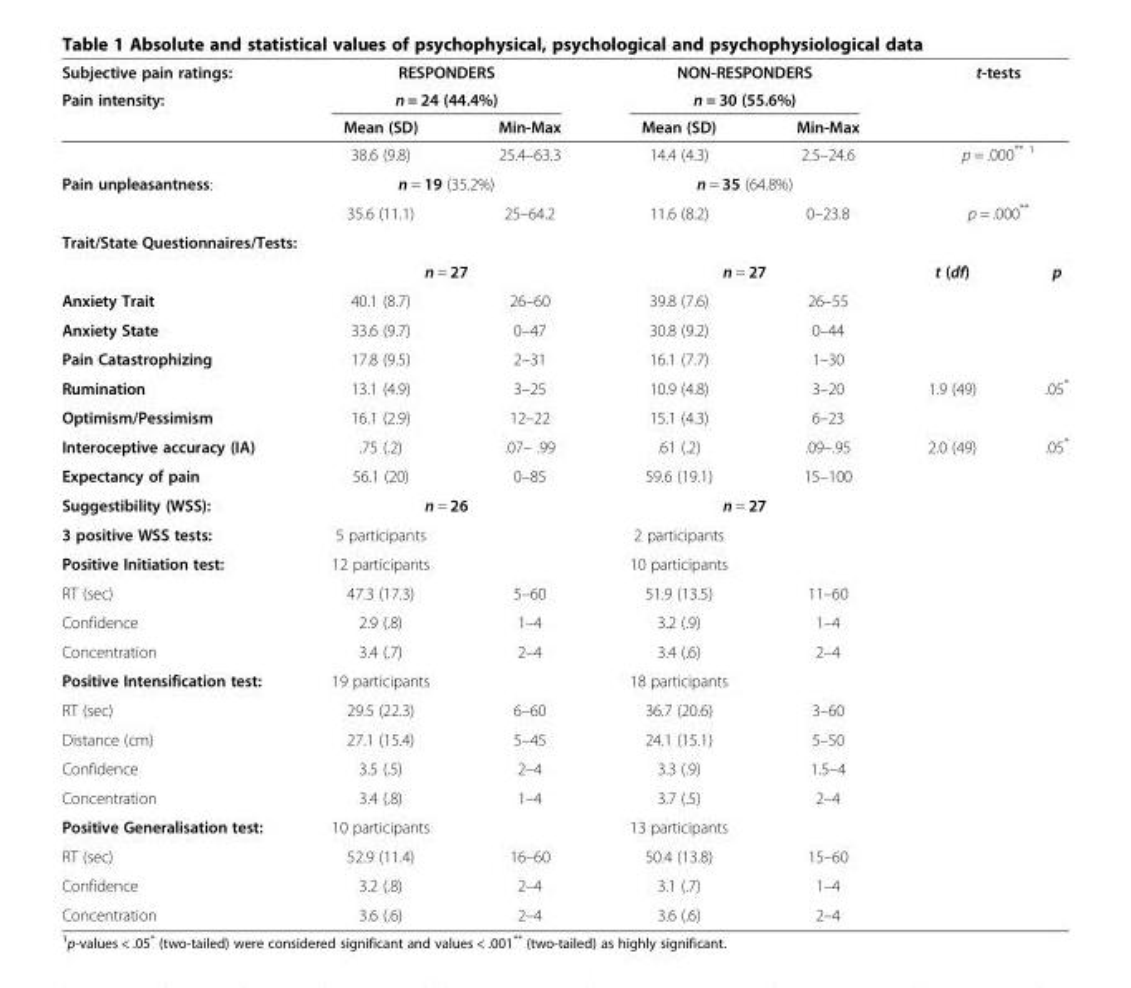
<table><thead><tr><td rowspan="3">Subjective pain ratings: Pain intensity:</td><td rowspan="2" colspan="2">RESPONDERS n = 24 (44.4%)</td><td rowspan="2" colspan="2">NON-RESPONDERS n = 30 (55.6%)</td><td colspan="2">t-tests</td></tr><tr><td rowspan="2"></td><td rowspan="2"></td></tr><tr><td>Mean (SD)</td><td>Min-Max</td><td>Mean (SD)</td><td>Min-Max</td></tr></thead><tbody><tr><td></td><td>38.6 (9.8)</td><td>25.4–63.3</td><td>14.4 (4.3)</td><td>2.5–24.6</td><td colspan="2">p = .000<sup>** 1</sup></td></tr><tr><td rowspan="2">Pain unpleasantness:</td><td colspan="2">n = 19 (35.2%)</td><td colspan="2">n = 35 (64.8%)</td><td colspan="2"></td></tr><tr><td>35.6 (11.1)</td><td>25–64.2</td><td>11.6 (8.2)</td><td>0–23.8</td><td colspan="2">p = .000**</td></tr><tr><td colspan="7">Trait/State Questionnaires/Tests:</td></tr><tr><td></td><td colspan="2">n = 27</td><td colspan="2">n = 27</td><td>t (df)</td><td>p</td></tr><tr><td>Anxiety Trait</td><td>40.1 (8.7)</td><td>26–60</td><td>39.8 (7.6)</td><td>26–55</td><td></td><td></td></tr><tr><td>Anxiety State</td><td>33.6 (9.7)</td><td>0–47</td><td>30.8 (9.2)</td><td>0–44</td><td></td><td></td></tr><tr><td>Pain Catastrophizing</td><td>17.8 (9.5)</td><td>2–31</td><td>16.1 (7.7)</td><td>1–30</td><td colspan="2"></td></tr><tr><td>Rumination</td><td>13.1 (4.9)</td><td>3–25</td><td>10.9 (4.8)</td><td>3–20</td><td>1.9 (49)</td><td>.05*</td></tr><tr><td>Optimism/Pessimism</td><td>16.1 (2.9)</td><td>12–22</td><td>15.1 (4.3)</td><td>6–23</td><td colspan="2"></td></tr><tr><td>Interoceptive accuracy (IA)</td><td>.75 (.2)</td><td>.07– .99</td><td>.61 (.2)</td><td>.09–.95</td><td>2.0 (49)</td><td>.05*</td></tr><tr><td>Expectancy of pain</td><td>56.1 (20)</td><td>0–85</td><td>59.6 (19.1)</td><td>15–100</td><td></td><td></td></tr><tr><td>Suggestibility (WSS):</td><td colspan="2">n = 26</td><td colspan="2">n = 27</td><td colspan="2"></td></tr><tr><td>3 positive WSS tests:</td><td>5 participants</td><td></td><td>2 participants</td><td></td><td colspan="2"></td></tr><tr><td>Positive Initiation test:</td><td>12 participants</td><td></td><td>10 participants</td><td></td><td colspan="2"></td></tr><tr><td>RT (sec)</td><td>47.3 (17.3)</td><td>5–60</td><td>51.9 (13.5)</td><td>11–60</td><td colspan="2"></td></tr><tr><td>Confidence</td><td>2.9 (.8)</td><td>1–4</td><td>3.2 (.9)</td><td>1–4</td><td colspan="2"></td></tr><tr><td>Concentration</td><td>3.4 (.7)</td><td>2–4</td><td>3.4 (.6)</td><td>2–4</td><td colspan="2"></td></tr><tr><td>Positive Intensification test:</td><td>19 participants</td><td></td><td>18 participants</td><td></td><td colspan="2"></td></tr><tr><td>RT (sec)</td><td>29.5 (22.3)</td><td>6–60</td><td>36.7 (20.6)</td><td>3–60</td><td colspan="2"></td></tr><tr><td>Distance (cm)</td><td>27.1 (15.4)</td><td>5–45</td><td>24.1 (15.1)</td><td>5–50</td><td colspan="2"></td></tr><tr><td>Confidence</td><td>3.5 (.5)</td><td>2–4</td><td>3.3 (.9)</td><td>1.5–4</td><td colspan="2"></td></tr><tr><td>Concentration</td><td>3.4 (.8)</td><td>1–4</td><td>3.7 (.5)</td><td>2–4</td><td colspan="2"></td></tr><tr><td>Positive Generalisation test:</td><td>10 participants</td><td></td><td>13 participants</td><td></td><td colspan="2"></td></tr><tr><td>RT (sec)</td><td>52.9 (11.4)</td><td>16–60</td><td>50.4 (13.8)</td><td>15–60</td><td colspan="2"></td></tr><tr><td>Confidence</td><td>3.2 (.8)</td><td>2–4</td><td>3.1 (.7)</td><td>1–4</td><td colspan="2"></td></tr><tr><td>Concentration</td><td>3.6 (.6)</td><td>2–4</td><td>3.6 (.6)</td><td>2–4</td><td colspan="2"></td></tr></tbody></table>